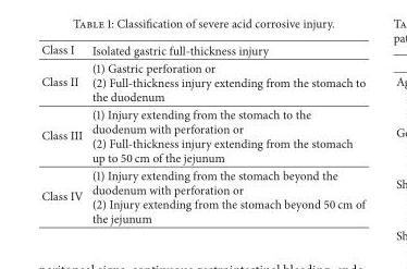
<table><tbody><tr><td>Class I</td><td>Isolated gastric full-thickness injury</td></tr><tr><td>Class II</td><td>(1) Gastric perforation or (2) Full-thickness injury extending from the stomach to the duodenum</td></tr><tr><td>Class III</td><td>(1) Injury extending from the stomach to the duodenum with perforation or (2) Full-thickness injury extending from the stomach up to 50 cm of the jejunum</td></tr><tr><td>Class IV</td><td>(1) Injury extending from the stomach beyond the duodenum with perforation or (2) Injury extending from the stomach beyond 50 cm of the jejunum</td></tr></tbody></table>